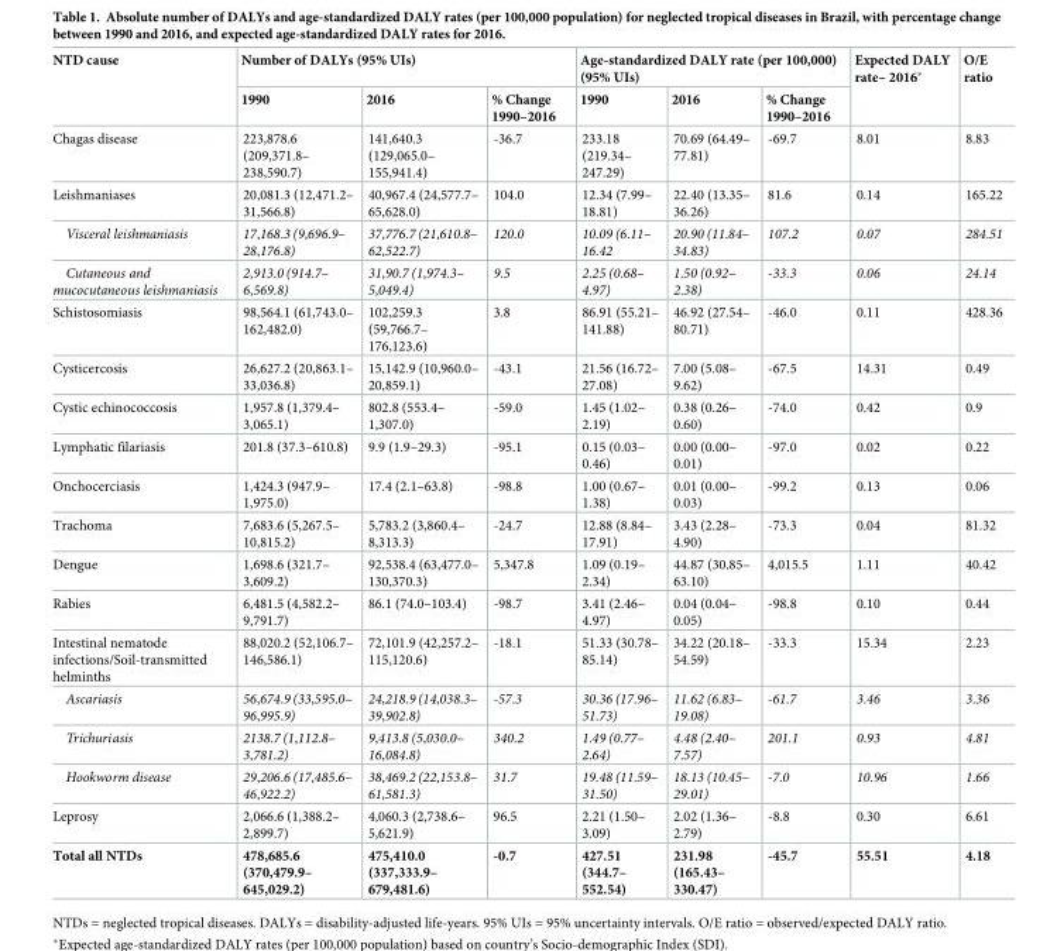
<table><thead><tr><td rowspan="2">NTD cause</td><td colspan="3">Number of DALYs (95% UIs)</td><td colspan="3">Age-standardized DALY rate (per 100,000) (95% UIs)</td><td rowspan="2">Expected DALY rate– 2016*</td><td rowspan="2">O/E ratio</td></tr><tr><td>1990</td><td>2016</td><td>% Change 1990–2016</td><td>1990</td><td>2016</td><td>% Change 1990–2016</td></tr></thead><tbody><tr><td>Chagas disease</td><td>223,878.6 (209,371.8– 238,590.7)</td><td>141,640.3 (129,065.0– 155,941.4)</td><td>-36.7</td><td>233.18 (219.34– 247.29)</td><td>70.69 (64.49– 77.81)</td><td>-69.7</td><td>8.01</td><td>8.83</td></tr><tr><td>Leishmaniases</td><td>20,081.3 (12,471.2– 31,566.8)</td><td>40,967.4 (24,577.7– 65,628.0)</td><td>104.0</td><td>12.34 (7.99– 18.81)</td><td>22.40 (13.35– 36.26)</td><td>81.6</td><td>0.14</td><td>165.22</td></tr><tr><td>Visceral leishmaniasis</td><td>17,168.3 (9,696.9– 28,176.8)</td><td>37,776.7 (21,610.8– 62,522.7)</td><td>120.0</td><td>10.09 (6.11– 16.42</td><td>20.90 (11.84– 34.83)</td><td>107.2</td><td>0.07</td><td>284.51</td></tr><tr><td>Cutaneous and mucocutaneous leishmaniasis</td><td>2,913.0 (914.7– 6,569.8)</td><td>31,90.7 (1,974.3– 5,049.4)</td><td>9.5</td><td>2.25 (0.68– 4.97)</td><td>1.50 (0.92– 2.38)</td><td>-33.3</td><td>0.06</td><td>24.14</td></tr><tr><td>Schistosomiasis</td><td>98,564.1 (61,743.0– 162,482.0)</td><td>102,259.3 (59,766.7– 176,123.6)</td><td>3.8</td><td>86.91 (55.21– 141.88)</td><td>46.92 (27.54– 80.71)</td><td>-46.0</td><td>0.11</td><td>428.36</td></tr><tr><td>Cysticercosis</td><td>26,627.2 (20,863.1– 33,036.8)</td><td>15,142.9 (10,960.0– 20,859.1)</td><td>-43.1</td><td>21.56 (16.72– 27.08)</td><td>7.00 (5.08– 9.62)</td><td>-67.5</td><td>14.31</td><td>0.49</td></tr><tr><td>Cystic echinococcosis</td><td>1,957.8 (1,379.4– 3,065.1)</td><td>802.8 (553.4– 1,307.0)</td><td>-59.0</td><td>1.45 (1.02– 2.19)</td><td>0.38 (0.26– 0.60)</td><td>-74.0</td><td>0.42</td><td>0.9</td></tr><tr><td>Lymphatic filariasis</td><td>201.8 (37.3–610.8)</td><td>9.9 (1.9–29.3)</td><td>-95.1</td><td>0.15 (0.03– 0.46)</td><td>0.00 (0.00– 0.01)</td><td>-97.0</td><td>0.02</td><td>0.22</td></tr><tr><td>Onchocerciasis</td><td>1,424.3 (947.9– 1,975.0)</td><td>17.4 (2.1–63.8)</td><td>-98.8</td><td>1.00 (0.67– 1.38)</td><td>0.01 (0.00– 0.03)</td><td>-99.2</td><td>0.13</td><td>0.06</td></tr><tr><td>Trachoma</td><td>7,683.6 (5,267.5– 10,815.2)</td><td>5,783.2 (3,860.4– 8,313.3)</td><td>-24.7</td><td>12.88 (8.84– 17.91)</td><td>3.43 (2.28– 4.90)</td><td>-73.3</td><td>0.04</td><td>81.32</td></tr><tr><td>Dengue</td><td>1,698.6 (321.7– 3,609.2)</td><td>92,538.4 (63,477.0– 130,370.3)</td><td>5,347.8</td><td>1.09 (0.19– 2.34)</td><td>44.87 (30.85– 63.10)</td><td>4,015.5</td><td>1.11</td><td>40.42</td></tr><tr><td>Rabies</td><td>6,481.5 (4,582.2– 9,791.7)</td><td>86.1 (74.0–103.4)</td><td>-98.7</td><td>3.41 (2.46– 4.97)</td><td>0.04 (0.04– 0.05)</td><td>-98.8</td><td>0.10</td><td>0.44</td></tr><tr><td>Intestinal nematode infections/Soil-transmitted helminths</td><td>88,020.2 (52,106.7– 146,586.1)</td><td>72,101.9 (42,257.2– 115,120.6)</td><td>-18.1</td><td>51.33 (30.78– 85.14)</td><td>34.22 (20.18– 54.59)</td><td>-33.3</td><td>15.34</td><td>2.23</td></tr><tr><td>Ascariasis</td><td>56,674.9 (33,595.0– 96,995.9)</td><td>24,218.9 (14,038.3– 39,902.8)</td><td>-57.3</td><td>30.36 (17.96– 51.73)</td><td>11.62 (6.83– 19.08)</td><td>-61.7</td><td>3.46</td><td>3.36</td></tr><tr><td>Trichuriasis</td><td>2138.7 (1,112.8– 3,781.2)</td><td>9,413.8 (5,030.0– 16,084.8)</td><td>340.2</td><td>1.49 (0.77– 2.64)</td><td>4.48 (2.40– 7.57)</td><td>201.1</td><td>0.93</td><td>4.81</td></tr><tr><td>Hookworm disease</td><td>29,206.6 (17,485.6– 46,922.2)</td><td>38,469.2 (22,153.8– 61,581.3)</td><td>31.7</td><td>19.48 (11.59– 31.50)</td><td>18.13 (10.45– 29.01)</td><td>-7.0</td><td>10.96</td><td>1.66</td></tr><tr><td>Leprosy</td><td>2,066.6 (1,388.2– 2,899.7)</td><td>4,060.3 (2,738.6– 5,621.9)</td><td>96.5</td><td>2.21 (1.50– 3.09)</td><td>2.02 (1.36– 2.79)</td><td>-8.8</td><td>0.30</td><td>6.61</td></tr><tr><td>Total all NTDs</td><td>478,685.6 (370,479.9– 645,029.2)</td><td>475,410.0 (337,333.9– 679,481.6)</td><td>-0.7</td><td>427.51 (344.7– 552.54)</td><td>231.98 (165.43– 330.47)</td><td>-45.7</td><td>55.51</td><td>4.18</td></tr></tbody></table>